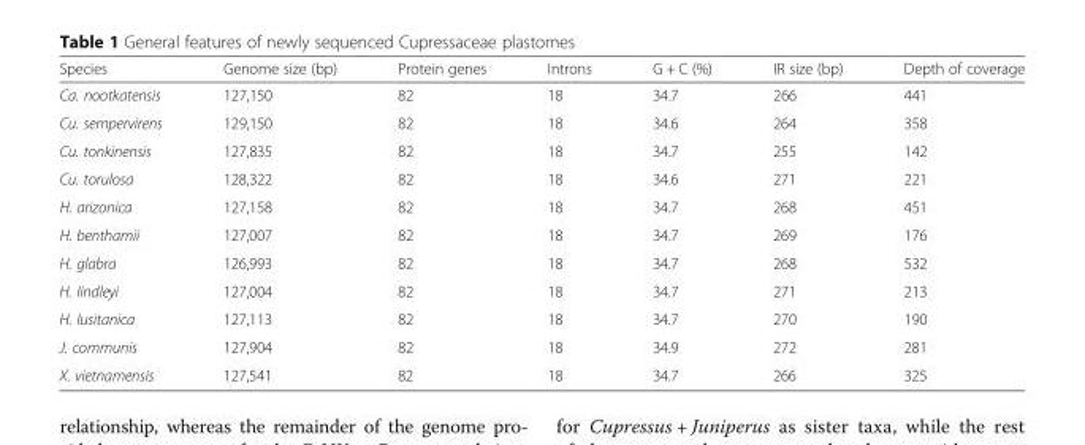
<table><thead><tr><td>Species</td><td>Genome size (bp)</td><td>Protein genes</td><td>Introns</td><td>G + C (%)</td><td>IR size (bp)</td><td>Depth of coverage</td></tr></thead><tbody><tr><td>Ca. nootkatensis</td><td>127,150</td><td>82</td><td>18</td><td>34.7</td><td>266</td><td>441</td></tr><tr><td>Cu. sempervirens</td><td>129,150</td><td>82</td><td>18</td><td>34.6</td><td>264</td><td>358</td></tr><tr><td>Cu. tonkinensis</td><td>127,835</td><td>82</td><td>18</td><td>34.7</td><td>255</td><td>142</td></tr><tr><td>Cu. torulosa</td><td>128,322</td><td>82</td><td>18</td><td>34.6</td><td>271</td><td>221</td></tr><tr><td>H. arizonica</td><td>127,158</td><td>82</td><td>18</td><td>34.7</td><td>268</td><td>451</td></tr><tr><td>H. benthamii</td><td>127,007</td><td>82</td><td>18</td><td>34.7</td><td>269</td><td>176</td></tr><tr><td>H. glabra</td><td>126,993</td><td>82</td><td>18</td><td>34.7</td><td>268</td><td>532</td></tr><tr><td>H. lindleyi</td><td>127,004</td><td>82</td><td>18</td><td>34.7</td><td>271</td><td>213</td></tr><tr><td>H. lusitanica</td><td>127,113</td><td>82</td><td>18</td><td>34.7</td><td>270</td><td>190</td></tr><tr><td>J. communis</td><td>127,904</td><td>82</td><td>18</td><td>34.9</td><td>272</td><td>281</td></tr><tr><td>X. vietnamensis</td><td>127,541</td><td>82</td><td>18</td><td>34.7</td><td>266</td><td>325</td></tr></tbody></table>